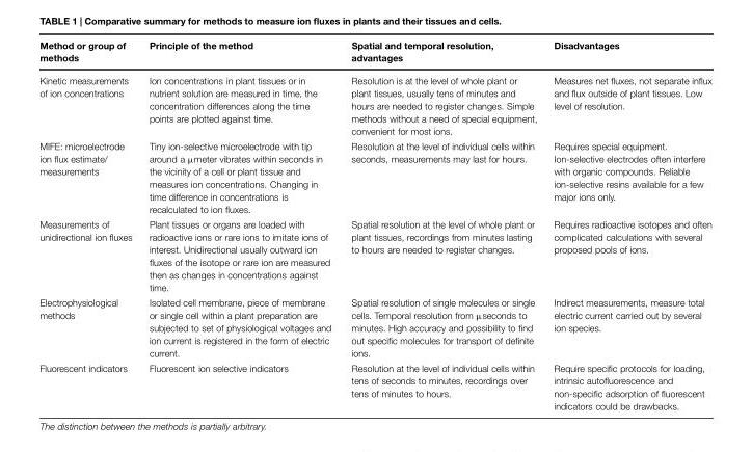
<table><thead><tr><td>Method or group of methods</td><td>Principle of the method</td><td>Spatial and temporal resolution, advantages</td><td>Disadvantages</td></tr></thead><tbody><tr><td>Kinetic measurements of ion concentrations</td><td>Ion concentrations in plant tissues or in nutrient solution are measured in time, the concentration differences along the time points are plotted against time.</td><td>Resolution is at the level of whole plant or plant tissues, usually tens of minutes and hours are needed to register changes. Simple methods without a need of special equipment, convenient for most ions.</td><td>Measures net fluxes, not separate influx and flux outside of plant tissues. Low level of resolution.</td></tr><tr><td>MIFE: microelectrode ion flux estimate/ measurements</td><td>Tiny ion-selective microelectrode with tip around a μmeter vibrates within seconds in the vicinity of a cell or plant tissue and measures ion concentrations. Changing in time difference in concentrations is recalculated to ion fluxes.</td><td>Resolution at the level of individual cells within seconds, measurements may last for hours.</td><td>Requires special equipment. Ion-selective electrodes often interfere with organic compounds. Reliable ion-selective resins available for a few major ions only.</td></tr><tr><td>Measurements of unidirectional ion fluxes</td><td>Plant tissues or organs are loaded with radioactive ions or rare ions to imitate ions of interest. Unidirectional usually outward ion fluxes of the isotope or rare ion are measured then as changes in concentrations against time.</td><td>Spatial resolution at the level of whole plant or plant tissues, recordings from minutes lasting to hours are needed to register changes.</td><td>Requires radioactive isotopes and often complicated calculations with several proposed pools of ions.</td></tr><tr><td>Electrophysiological methods</td><td>Isolated cell membrane, piece of membrane or single cell within a plant preparation are subjected to set of physiological voltages and ion current is registered in the form of electric current.</td><td>Spatial resolution of single molecules or single cells. Temporal resolution from μseconds to minutes. High accuracy and possibility to find out specific molecules for transport of definite ions.</td><td>Indirect measurements, measure total electric current carried out by several ion species.</td></tr><tr><td>Fluorescent indicators</td><td>Fluorescent ion selective indicators</td><td>Resolution at the level of individual cells within tens of seconds to minutes, recordings over tens of minutes to hours.</td><td>Require specific protocols for loading, intrinsic autofluorescence and non-specific adsorption of fluorescent indicators could be drawbacks.</td></tr></tbody></table>